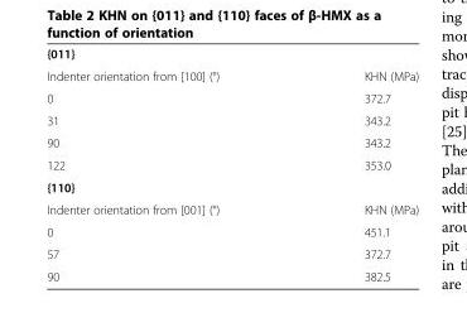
<table><tbody><tr><td colspan="2">{011}</td></tr><tr><td>Indenter orientation from [100] (°)</td><td>KHN (MPa)</td></tr><tr><td>0</td><td>372.7</td></tr><tr><td>31</td><td>343.2</td></tr><tr><td>90</td><td>343.2</td></tr><tr><td>122</td><td>353.0</td></tr><tr><td colspan="2">{110}</td></tr><tr><td>Indenter orientation from [001] (°)</td><td>KHN (MPa)</td></tr><tr><td>0</td><td>451.1</td></tr><tr><td>57</td><td>372.7</td></tr><tr><td>90</td><td>382.5</td></tr></tbody></table>